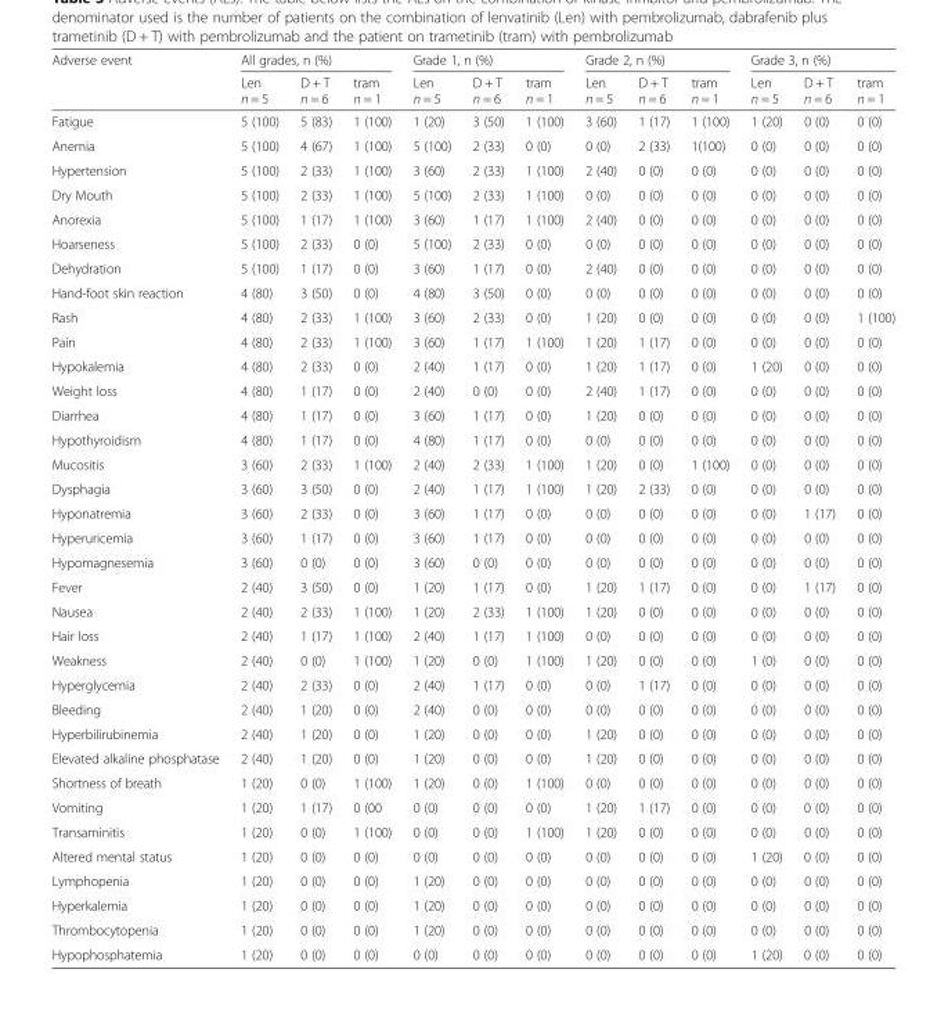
<table><thead><tr><td rowspan="2">Adverse event</td><td colspan="3">All grades, n (%)</td><td colspan="3">Grade 1, n (%)</td><td colspan="3">Grade 2, n (%)</td><td colspan="3">Grade 3, n (%)</td></tr><tr><td>Len n = 5</td><td>D + T n = 6</td><td>tram n = 1</td><td>Len n = 5</td><td>D + T n = 6</td><td>tram n = 1</td><td>Len n = 5</td><td>D + T n = 6</td><td>tram n = 1</td><td>Len n = 5</td><td>D + T n = 6</td><td>tram n = 1</td></tr></thead><tbody><tr><td>Fatigue</td><td>5 (100)</td><td>5 (83)</td><td>1 (100)</td><td>1 (20)</td><td>3 (50)</td><td>1 (100)</td><td>3 (60)</td><td>1 (17)</td><td>1 (100)</td><td>1 (20)</td><td>0 (0)</td><td>0 (0)</td></tr><tr><td>Anemia</td><td>5 (100)</td><td>4 (67)</td><td>1 (100)</td><td>5 (100)</td><td>2 (33)</td><td>0 (0)</td><td>0 (0)</td><td>2 (33)</td><td>1(100)</td><td>0 (0)</td><td>0 (0)</td><td>0 (0)</td></tr><tr><td>Hypertension</td><td>5 (100)</td><td>2 (33)</td><td>1 (100)</td><td>3 (60)</td><td>2 (33)</td><td>1 (100)</td><td>2 (40)</td><td>0 (0)</td><td>0 (0)</td><td>0 (0)</td><td>0 (0)</td><td>0 (0)</td></tr><tr><td>Dry Mouth</td><td>5 (100)</td><td>2 (33)</td><td>1 (100)</td><td>5 (100)</td><td>2 (33)</td><td>1 (100)</td><td>0 (0)</td><td>0 (0)</td><td>0 (0)</td><td>0 (0)</td><td>0 (0)</td><td>0 (0)</td></tr><tr><td>Anorexia</td><td>5 (100)</td><td>1 (17)</td><td>1 (100)</td><td>3 (60)</td><td>1 (17)</td><td>1 (100)</td><td>2 (40)</td><td>0 (0)</td><td>0 (0)</td><td>0 (0)</td><td>0 (0)</td><td>0 (0)</td></tr><tr><td>Hoarseness</td><td>5 (100)</td><td>2 (33)</td><td>0 (0)</td><td>5 (100)</td><td>2 (33)</td><td>0 (0)</td><td>0 (0)</td><td>0 (0)</td><td>0 (0)</td><td>0 (0)</td><td>0 (0)</td><td>0 (0)</td></tr><tr><td>Dehydration</td><td>5 (100)</td><td>1 (17)</td><td>0 (0)</td><td>3 (60)</td><td>1 (17)</td><td>0 (0)</td><td>2 (40)</td><td>0 (0)</td><td>0 (0)</td><td>0 (0)</td><td>0 (0)</td><td>0 (0)</td></tr><tr><td>Hand-foot skin reaction</td><td>4 (80)</td><td>3 (50)</td><td>0 (0)</td><td>4 (80)</td><td>3 (50)</td><td>0 (0)</td><td>0 (0)</td><td>0 (0)</td><td>0 (0)</td><td>0 (0)</td><td>0 (0)</td><td>0 (0)</td></tr><tr><td>Rash</td><td>4 (80)</td><td>2 (33)</td><td>1 (100)</td><td>3 (60)</td><td>2 (33)</td><td>0 (0)</td><td>1 (20)</td><td>0 (0)</td><td>0 (0)</td><td>0 (0)</td><td>0 (0)</td><td>1 (100)</td></tr><tr><td>Pain</td><td>4 (80)</td><td>2 (33)</td><td>1 (100)</td><td>3 (60)</td><td>1 (17)</td><td>1 (100)</td><td>1 (20)</td><td>1 (17)</td><td>0 (0)</td><td>0 (0)</td><td>0 (0)</td><td>0 (0)</td></tr><tr><td>Hypokalemia</td><td>4 (80)</td><td>2 (33)</td><td>0 (0)</td><td>2 (40)</td><td>1 (17)</td><td>0 (0)</td><td>1 (20)</td><td>1 (17)</td><td>0 (0)</td><td>1 (20)</td><td>0 (0)</td><td>0 (0)</td></tr><tr><td>Weight loss</td><td>4 (80)</td><td>1 (17)</td><td>0 (0)</td><td>2 (40)</td><td>0 (0)</td><td>0 (0)</td><td>2 (40)</td><td>1 (17)</td><td>0 (0)</td><td>0 (0)</td><td>0 (0)</td><td>0 (0)</td></tr><tr><td>Diarrhea</td><td>4 (80)</td><td>1 (17)</td><td>0 (0)</td><td>3 (60)</td><td>1 (17)</td><td>0 (0)</td><td>1 (20)</td><td>0 (0)</td><td>0 (0)</td><td>0 (0)</td><td>0 (0)</td><td>0 (0)</td></tr><tr><td>Hypothyroidism</td><td>4 (80)</td><td>1 (17)</td><td>0 (0)</td><td>4 (80)</td><td>1 (17)</td><td>0 (0)</td><td>0 (0)</td><td>0 (0)</td><td>0 (0)</td><td>0 (0)</td><td>0 (0)</td><td>0 (0)</td></tr><tr><td>Mucositis</td><td>3 (60)</td><td>2 (33)</td><td>1 (100)</td><td>2 (40)</td><td>2 (33)</td><td>1 (100)</td><td>1 (20)</td><td>0 (0)</td><td>1 (100)</td><td>0 (0)</td><td>0 (0)</td><td>0 (0)</td></tr><tr><td>Dysphagia</td><td>3 (60)</td><td>3 (50)</td><td>0 (0)</td><td>2 (40)</td><td>1 (17)</td><td>1 (100)</td><td>1 (20)</td><td>2 (33)</td><td>0 (0)</td><td>0 (0)</td><td>0 (0)</td><td>0 (0)</td></tr><tr><td>Hyponatremia</td><td>3 (60)</td><td>2 (33)</td><td>0 (0)</td><td>3 (60)</td><td>1 (17)</td><td>0 (0)</td><td>0 (0)</td><td>0 (0)</td><td>0 (0)</td><td>0 (0)</td><td>1 (17)</td><td>0 (0)</td></tr><tr><td>Hyperuricemia</td><td>3 (60)</td><td>1 (17)</td><td>0 (0)</td><td>3 (60)</td><td>1 (17)</td><td>0 (0)</td><td>0 (0)</td><td>0 (0)</td><td>0 (0)</td><td>0 (0)</td><td>0 (0)</td><td>0 (0)</td></tr><tr><td>Hypomagnesemia</td><td>3 (60)</td><td>0 (0)</td><td>0 (0)</td><td>3 (60)</td><td>0 (0)</td><td>0 (0)</td><td>0 (0)</td><td>0 (0)</td><td>0 (0)</td><td>0 (0)</td><td>0 (0)</td><td>0 (0)</td></tr><tr><td>Fever</td><td>2 (40)</td><td>3 (50)</td><td>0 (0)</td><td>1 (20)</td><td>1 (17)</td><td>0 (0)</td><td>1 (20)</td><td>1 (17)</td><td>0 (0)</td><td>0 (0)</td><td>1 (17)</td><td>0 (0)</td></tr><tr><td>Nausea</td><td>2 (40)</td><td>2 (33)</td><td>1 (100)</td><td>1 (20)</td><td>2 (33)</td><td>1 (100)</td><td>1 (20)</td><td>0 (0)</td><td>0 (0)</td><td>0 (0)</td><td>0 (0)</td><td>0 (0)</td></tr><tr><td>Hair loss</td><td>2 (40)</td><td>1 (17)</td><td>1 (100)</td><td>2 (40)</td><td>1 (17)</td><td>1 (100)</td><td>0 (0)</td><td>0 (0)</td><td>0 (0)</td><td>0 (0)</td><td>0 (0)</td><td>0 (0)</td></tr><tr><td>Weakness</td><td>2 (40)</td><td>0 (0)</td><td>1 (100)</td><td>1 (20)</td><td>0 (0)</td><td>1 (100)</td><td>1 (20)</td><td>0 (0)</td><td>0 (0)</td><td>1 (0)</td><td>0 (0)</td><td>0 (0)</td></tr><tr><td>Hyperglycemia</td><td>2 (40)</td><td>2 (33)</td><td>0 (0)</td><td>2 (40)</td><td>1 (17)</td><td>0 (0)</td><td>0 (0)</td><td>1 (17)</td><td>0 (0)</td><td>0 (0)</td><td>0 (0)</td><td>0 (0)</td></tr><tr><td>Bleeding</td><td>2 (40)</td><td>1 (20)</td><td>0 (0)</td><td>2 (40)</td><td>0 (0)</td><td>0 (0)</td><td>0 (0)</td><td>0 (0)</td><td>0 (0)</td><td>0 (0)</td><td>0 (0)</td><td>0 (0)</td></tr><tr><td>Hyperbilirubinemia</td><td>2 (40)</td><td>1 (20)</td><td>0 (0)</td><td>1 (20)</td><td>0 (0)</td><td>0 (0)</td><td>1 (20)</td><td>0 (0)</td><td>0 (0)</td><td>0 (0)</td><td>0 (0)</td><td>0 (0)</td></tr><tr><td>Elevated alkaline phosphatase</td><td>2 (40)</td><td>1 (20)</td><td>0 (0)</td><td>1 (20)</td><td>0 (0)</td><td>0 (0)</td><td>1 (20)</td><td>0 (0)</td><td>0 (0)</td><td>0 (0)</td><td>0 (0)</td><td>0 (0)</td></tr><tr><td>Shortness of breath</td><td>1 (20)</td><td>0 (0)</td><td>1 (100)</td><td>1 (20)</td><td>0 (0)</td><td>1 (100)</td><td>0 (0)</td><td>0 (0)</td><td>0 (0)</td><td>0 (0)</td><td>0 (0)</td><td>0 (0)</td></tr><tr><td>Vomiting</td><td>1 (20)</td><td>1 (17)</td><td>0 (00</td><td>0 (0)</td><td>0 (0)</td><td>0 (0)</td><td>1 (20)</td><td>1 (17)</td><td>0 (0)</td><td>0 (0)</td><td>0 (0)</td><td>0 (0)</td></tr><tr><td>Transaminitis</td><td>1 (20)</td><td>0 (0)</td><td>1 (100)</td><td>0 (0)</td><td>0 (0)</td><td>1 (100)</td><td>1 (20)</td><td>0 (0)</td><td>0 (0)</td><td>0 (0)</td><td>0 (0)</td><td>0 (0)</td></tr><tr><td>Altered mental status</td><td>1 (20)</td><td>0 (0)</td><td>0 (0)</td><td>0 (0)</td><td>0 (0)</td><td>0 (0)</td><td>0 (0)</td><td>0 (0)</td><td>0 (0)</td><td>1 (20)</td><td>0 (0)</td><td>0 (0)</td></tr><tr><td>Lymphopenia</td><td>1 (20)</td><td>0 (0)</td><td>0 (0)</td><td>1 (20)</td><td>0 (0)</td><td>0 (0)</td><td>0 (0)</td><td>0 (0)</td><td>0 (0)</td><td>0 (0)</td><td>0 (0)</td><td>0 (0)</td></tr><tr><td>Hyperkalemia</td><td>1 (20)</td><td>0 (0)</td><td>0 (0)</td><td>1 (20)</td><td>0 (0)</td><td>0 (0)</td><td>0 (0)</td><td>0 (0)</td><td>0 (0)</td><td>0 (0)</td><td>0 (0)</td><td>0 (0)</td></tr><tr><td>Thrombocytopenia</td><td>1 (20)</td><td>0 (0)</td><td>0 (0)</td><td>1 (20)</td><td>0 (0)</td><td>0 (0)</td><td>0 (0)</td><td>0 (0)</td><td>0 (0)</td><td>0 (0)</td><td>0 (0)</td><td>0 (0)</td></tr><tr><td>Hypophosphatemia</td><td>1 (20)</td><td>0 (0)</td><td>0 (0)</td><td>0 (0)</td><td>0 (0)</td><td>0 (0)</td><td>0 (0)</td><td>0 (0)</td><td>0 (0)</td><td>1 (20)</td><td>0 (0)</td><td>0 (0)</td></tr></tbody></table>